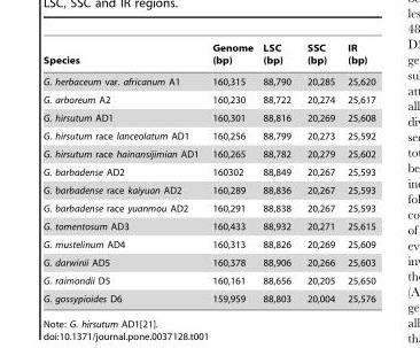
<table><thead><tr><td>Species</td><td>Genome (bp)</td><td>LSC (bp)</td><td>SSC (bp)</td><td>IR (bp)</td></tr></thead><tbody><tr><td>G. herbaceum var. africanum A1</td><td>160,315</td><td>88,790</td><td>20,285</td><td>25,620</td></tr><tr><td>G. arboreum A2</td><td>160,230</td><td>88,722</td><td>20,274</td><td>25,617</td></tr><tr><td>G. hirsutum AD1</td><td>160,301</td><td>88,816</td><td>20,269</td><td>25,608</td></tr><tr><td>G. hirsutum race lanceolatum AD1</td><td>160,256</td><td>88,799</td><td>20,273</td><td>25,592</td></tr><tr><td>G. hirsutum race hainansijimian AD1</td><td>160,265</td><td>88,782</td><td>20,279</td><td>25,602</td></tr><tr><td>G. barbadense AD2</td><td>160302</td><td>88,849</td><td>20,267</td><td>25,593</td></tr><tr><td>G. barbadense race kaiyuan AD2</td><td>160,289</td><td>88,836</td><td>20,267</td><td>25,593</td></tr><tr><td>G. barbadense race yuanmou AD2</td><td>160,291</td><td>88,838</td><td>20,267</td><td>25,593</td></tr><tr><td>G. tomentosum AD3</td><td>160,433</td><td>88,932</td><td>20,271</td><td>25,615</td></tr><tr><td>G. mustelinum AD4</td><td>160,313</td><td>88,826</td><td>20,269</td><td>25,609</td></tr><tr><td>G. darwinii AD5</td><td>160,378</td><td>88,906</td><td>20,266</td><td>25,603</td></tr><tr><td>G. raimondii D5</td><td>160,161</td><td>88,656</td><td>20,205</td><td>25,650</td></tr><tr><td>G. gossypioides D6</td><td>159,959</td><td>88,803</td><td>20,004</td><td>25,576</td></tr></tbody></table>